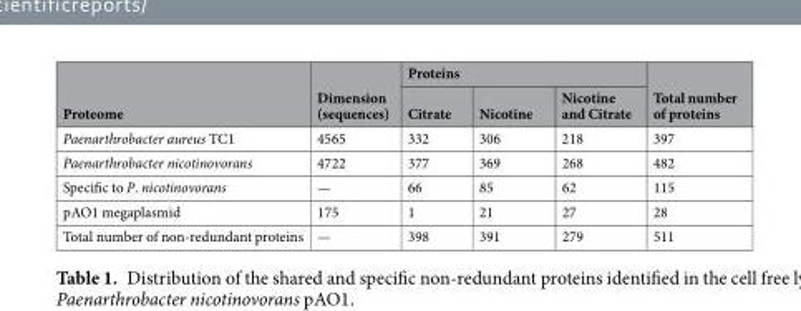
<table><thead><tr><td rowspan="2">Proteome</td><td rowspan="2">Dimension (sequences)</td><td colspan="3">Proteins</td><td rowspan="2">Total number of proteins</td></tr><tr><td>Citrate</td><td>Nicotine</td><td>Nicotine and Citrate</td></tr></thead><tbody><tr><td>Paenarthrobacter aureus TC1</td><td>4565</td><td>332</td><td>306</td><td>218</td><td>397</td></tr><tr><td>Paenarthrobacter nicotinovorans</td><td>4722</td><td>377</td><td>369</td><td>268</td><td>482</td></tr><tr><td>Specific to P. nicotinovorans</td><td>—</td><td>66</td><td>85</td><td>62</td><td>115</td></tr><tr><td>pAO1 megaplasmid</td><td>175</td><td>1</td><td>21</td><td>27</td><td>28</td></tr><tr><td>Total number of non-redundant proteins</td><td>—</td><td>398</td><td>391</td><td>279</td><td>511</td></tr></tbody></table>